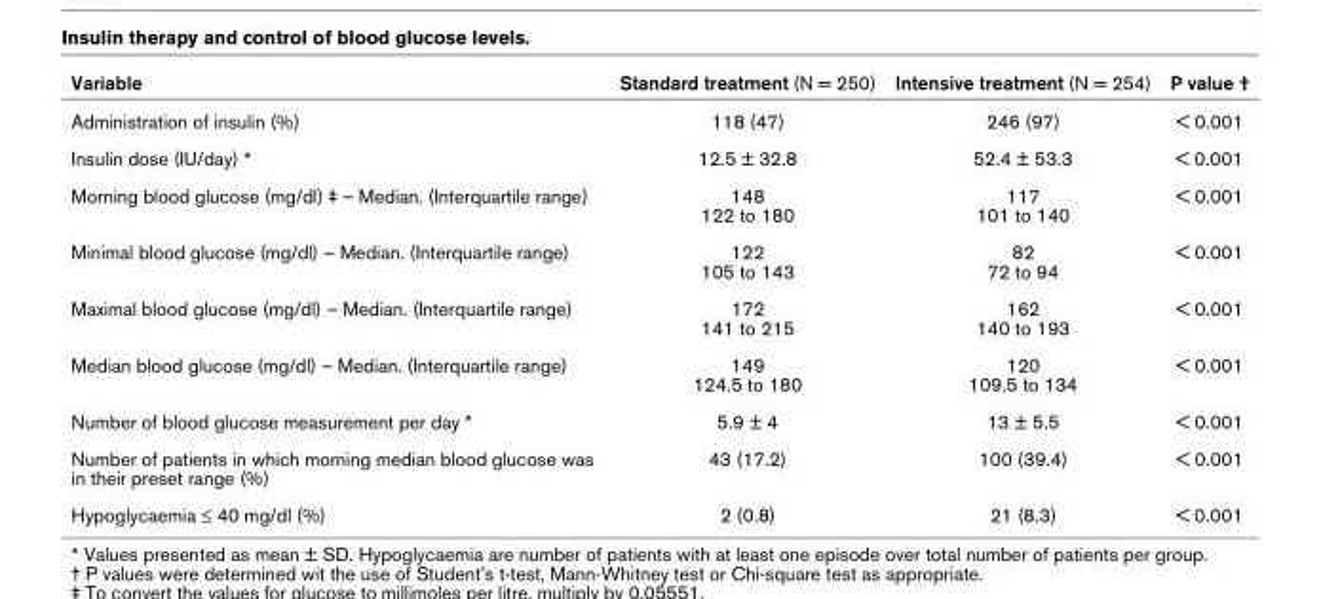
<table><thead><tr><td>Variable</td><td>Standard treatment (N = 250)</td><td>Intensive treatment (N = 254)</td><td>P value †</td></tr></thead><tbody><tr><td>Administration of insulin (%)</td><td>118 (47)</td><td>246 (97)</td><td>&lt; 0.001</td></tr><tr><td>Insulin dose (IU/day) *</td><td>12.5 ± 32.8</td><td>52.4 ± 53.3</td><td>&lt; 0.001</td></tr><tr><td>Morning blood glucose (mg/dl) ‡ – Median. (Interquartile range)</td><td>148 122 to 180</td><td>117 101 to 140</td><td>&lt; 0.001</td></tr><tr><td>Minimal blood glucose (mg/dl) – Median. (Interquartile range)</td><td>122 105 to 143</td><td>82 72 to 94</td><td>&lt; 0.001</td></tr><tr><td>Maximal blood glucose (mg/dl) – Median. (Interquartile range)</td><td>172 141 to 215</td><td>162 140 to 193</td><td>&lt; 0.001</td></tr><tr><td>Median blood glucose (mg/dl) – Median. (Interquartile range)</td><td>149 124.5 to 180</td><td>120 109.5 to 134</td><td>&lt; 0.001</td></tr><tr><td>Number of blood glucose measurement per day *</td><td>5.9 ± 4</td><td>13 ± 5.5</td><td>&lt; 0.001</td></tr><tr><td>Number of patients in which morning median blood glucose was in their preset range (%)</td><td>43 (17.2)</td><td>100 (39.4)</td><td>&lt; 0.001</td></tr><tr><td>Hypoglycaemia ≤ 40 mg/dl (%)</td><td>2 (0.8)</td><td>21 (8.3)</td><td>&lt; 0.001</td></tr></tbody></table>